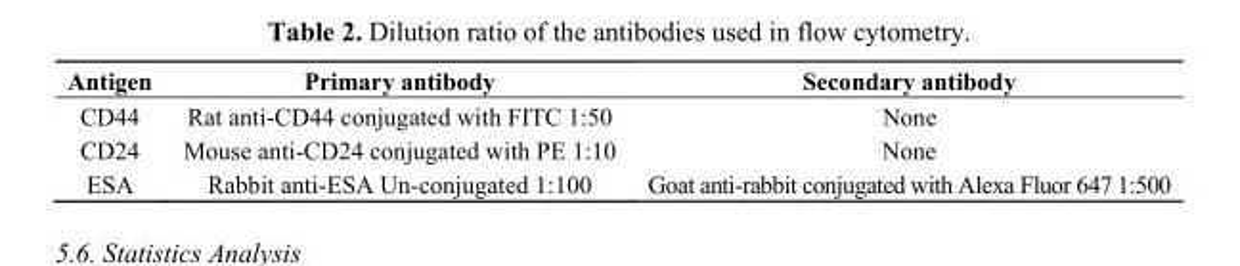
<table><thead><tr><td>Antigen</td><td>Primary antibody</td><td>Secondary antibody</td></tr></thead><tbody><tr><td>CD44</td><td>Rat anti-CD44 conjugated with FITC 1:50</td><td>None</td></tr><tr><td>CD24</td><td>Mouse anti-CD24 conjugated with PE 1:10</td><td>None</td></tr><tr><td>ESA</td><td>Rabbit anti-ESA Un-conjugated 1:100</td><td>Goat anti-rabbit conjugated with Alexa Fluor 647 1:500</td></tr></tbody></table>